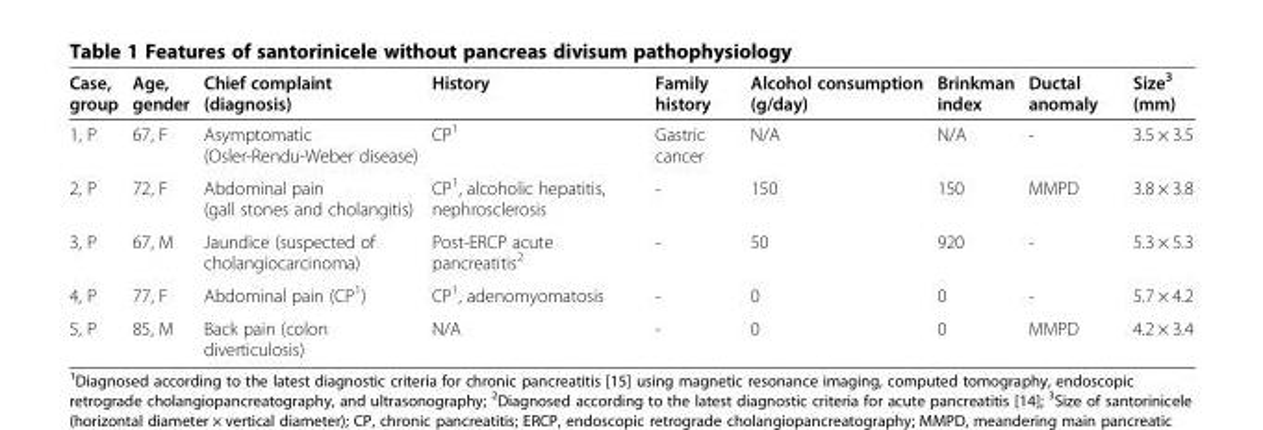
<table><thead><tr><td>Case, group</td><td>Age, gender</td><td>Chief complaint (diagnosis)</td><td>History</td><td>Family history</td><td>Alcohol consumption (g/day)</td><td>Brinkman index</td><td>Ductal anomaly</td><td>Size<sup>3</sup> (mm)</td></tr></thead><tbody><tr><td>1, P</td><td>67, F</td><td>Asymptomatic (Osler-Rendu-Weber disease)</td><td>CP<sup>1</sup></td><td>Gastric cancer</td><td>N/A</td><td>N/A</td><td>-</td><td>3.5 × 3.5</td></tr><tr><td>2, P</td><td>72, F</td><td>Abdominal pain (gall stones and cholangitis)</td><td>CP<sup>1</sup>, alcoholic hepatitis, nephrosclerosis</td><td>-</td><td>150</td><td>150</td><td>MMPD</td><td>3.8 × 3.8</td></tr><tr><td>3, P</td><td>67, M</td><td>Jaundice (suspected of cholangiocarcinoma)</td><td>Post-ERCP acute pancreatitis<sup>2</sup></td><td>-</td><td>50</td><td>920</td><td>-</td><td>5.3 × 5.3</td></tr><tr><td>4, P</td><td>77, F</td><td>Abdominal pain (CP<sup>1</sup>)</td><td>CP<sup>1</sup>, adenomyomatosis</td><td>-</td><td>0</td><td>0</td><td>-</td><td>5.7 × 4.2</td></tr><tr><td>5, P</td><td>85, M</td><td>Back pain (colon diverticulosis)</td><td>N/A</td><td>-</td><td>0</td><td>0</td><td>MMPD</td><td>4.2 × 3.4</td></tr></tbody></table>